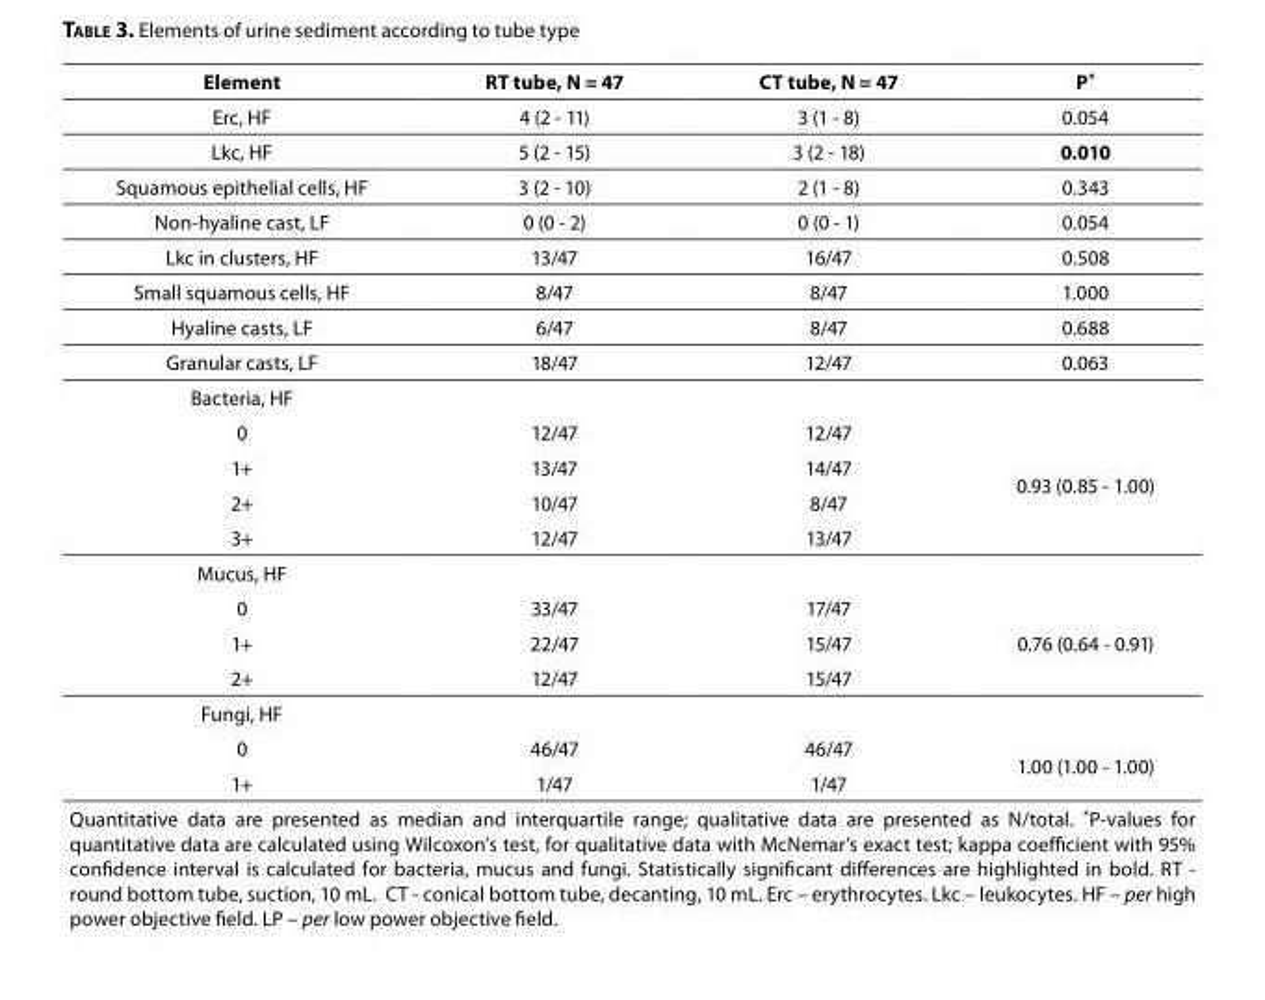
<table><thead><tr><td>Element</td><td>RT tube, N = 47</td><td>CT tube, N = 47</td><td>P*</td></tr></thead><tbody><tr><td>Erc, HF</td><td>4 (2 - 11)</td><td>3 (1 - 8)</td><td>0.054</td></tr><tr><td>Lkc, HF</td><td>5 (2 - 15)</td><td>3 (2 - 18)</td><td>0.010</td></tr><tr><td>Squamous epithelial cells, HF</td><td>3 (2 - 10)</td><td>2 (1 - 8)</td><td>0.343</td></tr><tr><td>Non-hyaline cast, LF</td><td>0 (0 - 2)</td><td>0 (0 - 1)</td><td>0.054</td></tr><tr><td>Lkc in clusters, HF</td><td>13/47</td><td>16/47</td><td>0.508</td></tr><tr><td>Small squamous cells, HF</td><td>8/47</td><td>8/47</td><td>1.000</td></tr><tr><td>Hyaline casts, LF</td><td>6/47</td><td>8/47</td><td>0.688</td></tr><tr><td>Granular casts, LF</td><td>18/47</td><td>12/47</td><td>0.063</td></tr><tr><td colspan="4">Bacteria, HF</td></tr><tr><td>0</td><td>12/47</td><td>12/47</td><td rowspan="4">0.93 (0.85 - 1.00)</td></tr><tr><td>1+</td><td>13/47</td><td>14/47</td></tr><tr><td>2+</td><td>10/47</td><td>8/47</td></tr><tr><td>3+</td><td>12/47</td><td>13/47</td></tr><tr><td colspan="4">Mucus, HF</td></tr><tr><td>0</td><td>33/47</td><td>17/47</td><td rowspan="3">0.76 (0.64 - 0.91)</td></tr><tr><td>1+</td><td>22/47</td><td>15/47</td></tr><tr><td>2+</td><td>12/47</td><td>15/47</td></tr><tr><td colspan="4">Fungi, HF</td></tr><tr><td>0</td><td>46/47</td><td>46/47</td><td rowspan="2">1.00 (1.00 - 1.00)</td></tr><tr><td>1+</td><td>1/47</td><td>1/47</td></tr><tr><td colspan="4">Quantitative data are presented as median and interquartile range; qualitative data are presented as N/total. *P-values for quantitative data are calculated using Wilcoxon’s test, for qualitative data with McNemar’s exact test; kappa coefficient with 95% confidence interval is calculated for bacteria, mucus and fungi. Statistically significant differences are highlighted in bold. RT - round bottom tube, suction, 10 mL. CT - conical bottom tube, decanting, 10 mL. Erc – erythrocytes. Lkc – leukocytes. HF – per high power objective field. LP – per low power objective field.</td></tr></tbody></table>